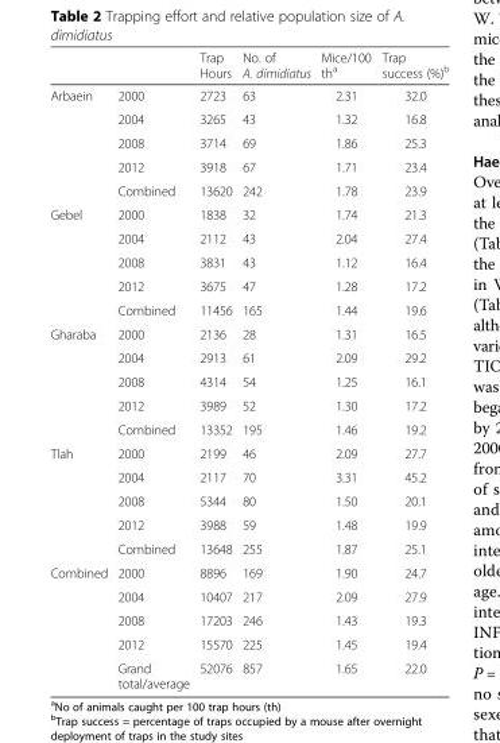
<table><thead><tr><td></td><td></td><td>Trap Hours</td><td>No. of A. dimidiatus</td><td>Mice/100 th<sup>a</sup></td><td>Trap success (%)<sup>b</sup></td></tr></thead><tbody><tr><td rowspan="5">Arbaein</td><td>2000</td><td>2723</td><td>63</td><td>2.31</td><td>32.0</td></tr><tr><td>2004</td><td>3265</td><td>43</td><td>1.32</td><td>16.8</td></tr><tr><td>2008</td><td>3714</td><td>69</td><td>1.86</td><td>25.3</td></tr><tr><td>2012</td><td>3918</td><td>67</td><td>1.71</td><td>23.4</td></tr><tr><td>Combined</td><td>13620</td><td>242</td><td>1.78</td><td>23.9</td></tr><tr><td rowspan="5">Gebel</td><td>2000</td><td>1838</td><td>32</td><td>1.74</td><td>21.3</td></tr><tr><td>2004</td><td>2112</td><td>43</td><td>2.04</td><td>27.4</td></tr><tr><td>2008</td><td>3831</td><td>43</td><td>1.12</td><td>16.4</td></tr><tr><td>2012</td><td>3675</td><td>47</td><td>1.28</td><td>17.2</td></tr><tr><td>Combined</td><td>11456</td><td>165</td><td>1.44</td><td>19.6</td></tr><tr><td rowspan="5">Gharaba</td><td>2000</td><td>2136</td><td>28</td><td>1.31</td><td>16.5</td></tr><tr><td>2004</td><td>2913</td><td>61</td><td>2.09</td><td>29.2</td></tr><tr><td>2008</td><td>4314</td><td>54</td><td>1.25</td><td>16.1</td></tr><tr><td>2012</td><td>3989</td><td>52</td><td>1.30</td><td>17.2</td></tr><tr><td>Combined</td><td>13352</td><td>195</td><td>1.46</td><td>19.2</td></tr><tr><td rowspan="5">Tlah</td><td>2000</td><td>2199</td><td>46</td><td>2.09</td><td>27.7</td></tr><tr><td>2004</td><td>2117</td><td>70</td><td>3.31</td><td>45.2</td></tr><tr><td>2008</td><td>5344</td><td>80</td><td>1.50</td><td>20.1</td></tr><tr><td>2012</td><td>3988</td><td>59</td><td>1.48</td><td>19.9</td></tr><tr><td>Combined</td><td>13648</td><td>255</td><td>1.87</td><td>25.1</td></tr><tr><td rowspan="5">Combined</td><td>2000</td><td>8896</td><td>169</td><td>1.90</td><td>24.7</td></tr><tr><td>2004</td><td>10407</td><td>217</td><td>2.09</td><td>27.9</td></tr><tr><td>2008</td><td>17203</td><td>246</td><td>1.43</td><td>19.3</td></tr><tr><td>2012</td><td>15570</td><td>225</td><td>1.45</td><td>19.4</td></tr><tr><td>Grand total/average</td><td>52076</td><td>857</td><td>1.65</td><td>22.0</td></tr></tbody></table>